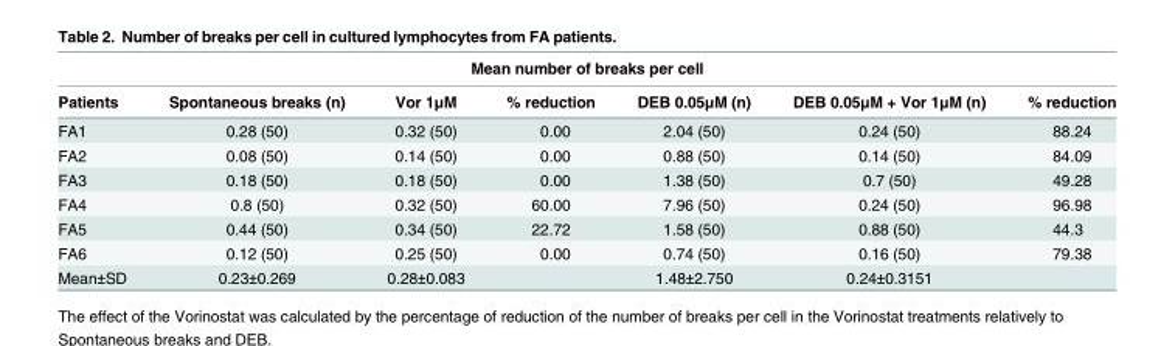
<table><thead><tr><td colspan="7">Mean number of breaks per cell</td></tr><tr><td>Patients</td><td>Spontaneous breaks (n)</td><td>Vor 1μM</td><td>% reduction</td><td>DEB 0.05μM (n)</td><td>DEB 0.05μM + Vor 1μM (n)</td><td>% reduction</td></tr></thead><tbody><tr><td>FA1</td><td>0.28 (50)</td><td>0.32 (50)</td><td>0.00</td><td>2.04 (50)</td><td>0.24 (50)</td><td>88.24</td></tr><tr><td>FA2</td><td>0.08 (50)</td><td>0.14 (50)</td><td>0.00</td><td>0.88 (50)</td><td>0.14 (50)</td><td>84.09</td></tr><tr><td>FA3</td><td>0.18 (50)</td><td>0.18 (50)</td><td>0.00</td><td>1.38 (50)</td><td>0.7 (50)</td><td>49.28</td></tr><tr><td>FA4</td><td>0.8 (50)</td><td>0.32 (50)</td><td>60.00</td><td>7.96 (50)</td><td>0.24 (50)</td><td>96.98</td></tr><tr><td>FA5</td><td>0.44 (50)</td><td>0.34 (50)</td><td>22.72</td><td>1.58 (50)</td><td>0.88 (50)</td><td>44.3</td></tr><tr><td>FA6</td><td>0.12 (50)</td><td>0.25 (50)</td><td>0.00</td><td>0.74 (50)</td><td>0.16 (50)</td><td>79.38</td></tr><tr><td>Mean±SD</td><td>0.23±0.269</td><td>0.28±0.083</td><td></td><td>1.48±2.750</td><td>0.24±0.3151</td><td></td></tr></tbody></table>